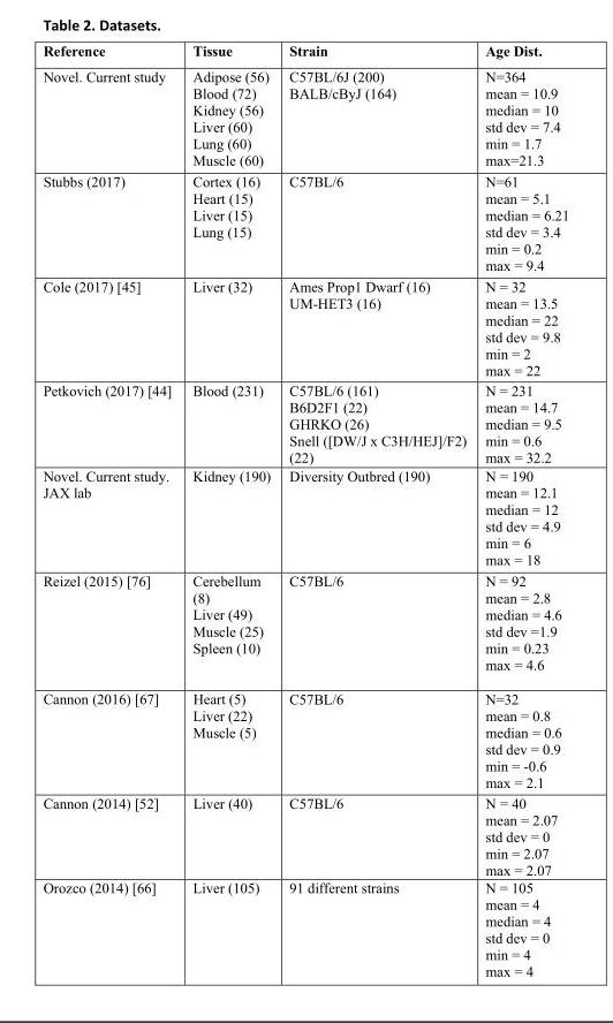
<table><tbody><tr><td>Reference</td><td>Tissue</td><td>Strain</td><td>Age Dist.</td></tr><tr><td>Novel. Current study</td><td>Adipose (56) Blood (72) Kidney (56) Liver (60) Lung (60) Muscle (60)</td><td>C57BL/6J (200) BALB/cByJ (164)</td><td>N=364 mean = 10.9 median = 10 std dev = 7.4 min = 1.7 max=21.3</td></tr><tr><td>Stubbs (2017)</td><td>Cortex (16) Heart (15) Liver (15) Lung (15)</td><td>C57BL/6</td><td>N=61 mean = 5.1 median = 6.21 std dev = 3.4 min = 0.2 max = 9.4</td></tr><tr><td>Cole (2017) [45]</td><td>Liver (32)</td><td>Ames Prop1 Dwarf (16) UM-HET3 (16)</td><td>N = 32 mean = 13.5 median = 22 std dev = 9.8 min = 2 max = 22</td></tr><tr><td>Petkovich (2017) [44]</td><td>Blood (231)</td><td>C57BL/6 (161) B6D2F1 (22) GHRKO (26) Snell ([DW/J x C3H/HEJ]/F2) (22)</td><td>N = 231 mean = 14.7 median = 9.5 min = 0.6 max = 32.2</td></tr><tr><td>Novel. Current study. JAX lab</td><td>Kidney (190)</td><td>Diversity Outbred (190)</td><td>N = 190 mean = 12.1 median = 12 std dev = 4.9 min = 6 max = 18</td></tr><tr><td>Reizel (2015) [76]</td><td>Cerebellum (8) Liver (49) Muscle (25) Spleen (10)</td><td>C57BL/6</td><td>N = 92 mean = 2.8 median = 4.6 std dev =1.9 min = 0.23 max = 4.6</td></tr><tr><td>Cannon (2016) [67]</td><td>Heart (5) Liver (22) Muscle (5)</td><td>C57BL/6</td><td>N=32 mean = 0.8 median = 0.6 std dev = 0.9 min = -0.6 max = 2.1</td></tr><tr><td>Cannon (2014) [52]</td><td>Liver (40)</td><td>C57BL/6</td><td>N = 40 mean = 2.07 std dev = 0 min = 2.07 max = 2.07</td></tr><tr><td>Orozco (2014) [66]</td><td>Liver (105)</td><td>91 different strains</td><td>N = 105 mean = 4 median = 4 std dev = 0 min = 4 max = 4</td></tr></tbody></table>